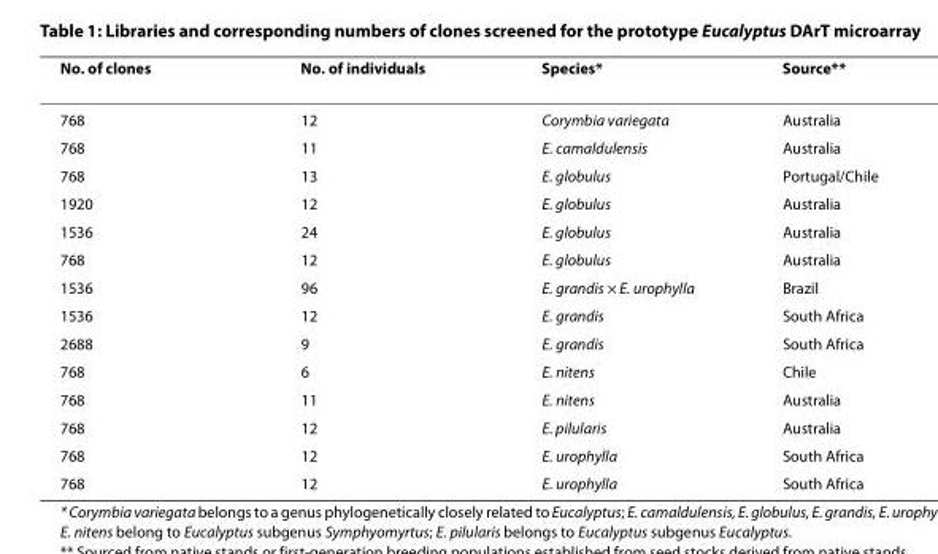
<table><thead><tr><td>No. of clones</td><td>No. of individuals</td><td>Species*</td><td>Source**</td></tr></thead><tbody><tr><td>768</td><td>12</td><td>Corymbia variegata</td><td>Australia</td></tr><tr><td>768</td><td>11</td><td>E. camaldulensis</td><td>Australia</td></tr><tr><td>768</td><td>13</td><td>E. globulus</td><td>Portugal/Chile</td></tr><tr><td>1920</td><td>12</td><td>E. globulus</td><td>Australia</td></tr><tr><td>1536</td><td>24</td><td>E. globulus</td><td>Australia</td></tr><tr><td>768</td><td>12</td><td>E. globulus</td><td>Australia</td></tr><tr><td>1536</td><td>96</td><td>E. grandis × E. urophylla</td><td>Brazil</td></tr><tr><td>1536</td><td>12</td><td>E. grandis</td><td>South Africa</td></tr><tr><td>2688</td><td>9</td><td>E. grandis</td><td>South Africa</td></tr><tr><td>768</td><td>6</td><td>E. nitens</td><td>Chile</td></tr><tr><td>768</td><td>11</td><td>E. nitens</td><td>Australia</td></tr><tr><td>768</td><td>12</td><td>E. pilularis</td><td>Australia</td></tr><tr><td>768</td><td>12</td><td>E. urophylla</td><td>South Africa</td></tr><tr><td>768</td><td>12</td><td>E. urophylla</td><td>South Africa</td></tr></tbody></table>